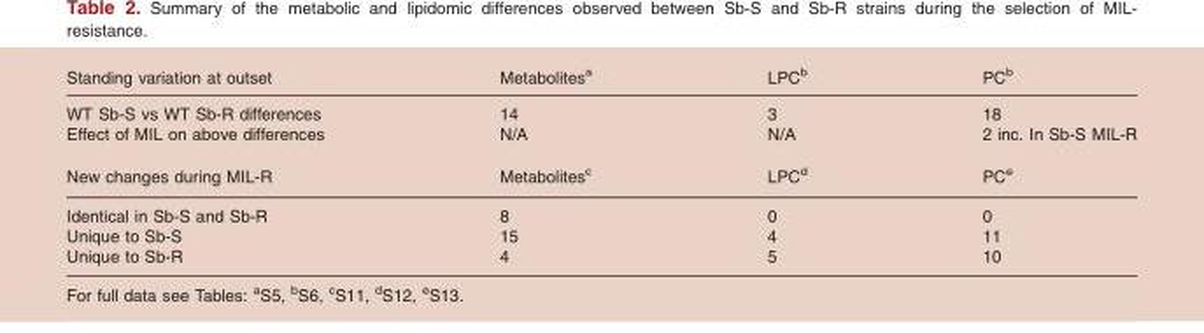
<table><thead><tr><td>Standing variation at outset</td><td>Metabolites<sup>a</sup></td><td>LPC<sup>b</sup></td><td>PC<sup>b</sup></td></tr></thead><tbody><tr><td>WT Sb-S vs WT Sb-R differences</td><td>14</td><td>3</td><td>18</td></tr><tr><td>Effect of MIL on above differences</td><td>N/A</td><td>N/A</td><td>2 inc. In Sb-S MIL-R</td></tr><tr><td>New changes during MIL-R</td><td>Metabolites<sup>c</sup></td><td>LPC<sup>d</sup></td><td>PC<sup>e</sup></td></tr><tr><td>Identical in Sb-S and Sb-R</td><td>8</td><td>0</td><td>0</td></tr><tr><td>Unique to Sb-S</td><td>15</td><td>4</td><td>11</td></tr><tr><td>Unique to Sb-R</td><td>4</td><td>5</td><td>10</td></tr></tbody></table>